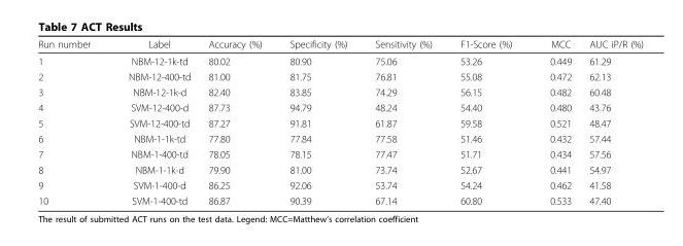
<table><thead><tr><td>Run number</td><td>Label</td><td>Accuracy (%)</td><td>Specificity (%)</td><td>Sensitivity (%)</td><td>F1-Score (%)</td><td>MCC</td><td>AUC iP/R (%)</td></tr></thead><tbody><tr><td>1</td><td>NBM-12-1k-td</td><td>80.02</td><td>80.90</td><td>75.06</td><td>53.26</td><td>0.449</td><td>61.29</td></tr><tr><td>2</td><td>NBM-12-400-td</td><td>81.00</td><td>81.75</td><td>76.81</td><td>55.08</td><td>0.472</td><td>62.13</td></tr><tr><td>3</td><td>NBM-12-1k-d</td><td>82.40</td><td>83.85</td><td>74.29</td><td>56.15</td><td>0.482</td><td>60.48</td></tr><tr><td>4</td><td>SVM-12-400-d</td><td>87.73</td><td>94.79</td><td>48.24</td><td>54.40</td><td>0.480</td><td>43.76</td></tr><tr><td>5</td><td>SVM-12-400-td</td><td>87.27</td><td>91.81</td><td>61.87</td><td>59.58</td><td>0.521</td><td>48.47</td></tr><tr><td>6</td><td>NBM-1-1k-td</td><td>77.80</td><td>77.84</td><td>77.58</td><td>51.46</td><td>0.432</td><td>57.44</td></tr><tr><td>7</td><td>NBM-1-400-td</td><td>78.05</td><td>78.15</td><td>77.47</td><td>51.71</td><td>0.434</td><td>57.56</td></tr><tr><td>8</td><td>NBM-1-1k-d</td><td>79.90</td><td>81.00</td><td>73.74</td><td>52.67</td><td>0.441</td><td>54.97</td></tr><tr><td>9</td><td>SVM-1-400-d</td><td>86.25</td><td>92.06</td><td>53.74</td><td>54.24</td><td>0.462</td><td>41.58</td></tr><tr><td>10</td><td>SVM-1-400-td</td><td>86.87</td><td>90.39</td><td>67.14</td><td>60.80</td><td>0.533</td><td>47.40</td></tr></tbody></table>